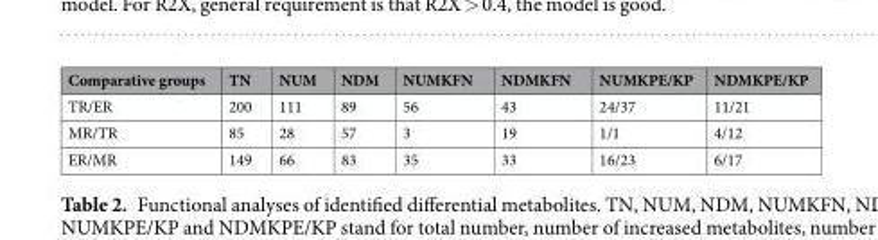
<table><thead><tr><td>Comparative groups</td><td>TN</td><td>NUM</td><td>NDM</td><td>NUMKFN</td><td>NDMKFN</td><td>NUMKPE/KP</td><td>NDMKPE/KP</td></tr></thead><tbody><tr><td>TR/ER</td><td>200</td><td>111</td><td>89</td><td>56</td><td>43</td><td>24/37</td><td>11/21</td></tr><tr><td>MR/TR</td><td>85</td><td>28</td><td>57</td><td>3</td><td>19</td><td>1/1</td><td>4/12</td></tr><tr><td>ER/MR</td><td>149</td><td>66</td><td>83</td><td>35</td><td>33</td><td>16/23</td><td>6/17</td></tr></tbody></table>